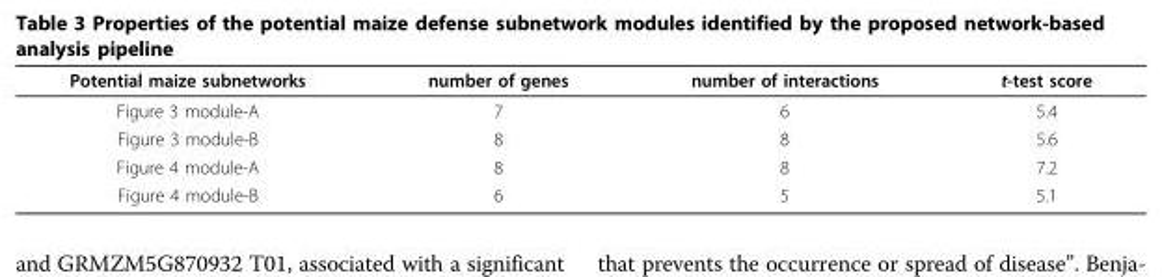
<table><thead><tr><td>Potential maize subnetworks</td><td>number of genes</td><td>number of interactions</td><td>t-test score</td></tr></thead><tbody><tr><td>Figure 3 module-A</td><td>7</td><td>6</td><td>5.4</td></tr><tr><td>Figure 3 module-B</td><td>8</td><td>8</td><td>5.6</td></tr><tr><td>Figure 4 module-A</td><td>8</td><td>8</td><td>7.2</td></tr><tr><td>Figure 4 module-B</td><td>6</td><td>5</td><td>5.1</td></tr></tbody></table>